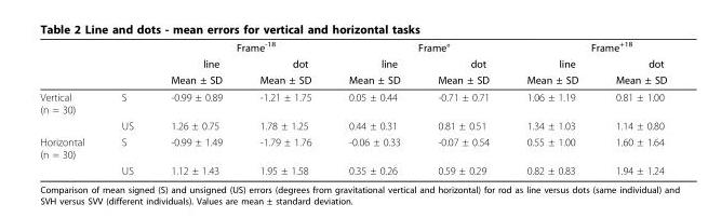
<table><thead><tr><td rowspan="3"></td><td rowspan="3"></td><td colspan="2">Frame<sup>-18</sup></td><td colspan="2">Frame°</td><td colspan="2">Frame<sup>+18</sup></td></tr><tr><td rowspan="2">line Mean ± SD</td><td rowspan="2">dot Mean ± SD</td><td rowspan="2">line Mean ± SD</td><td rowspan="2">dot Mean ± SD</td><td rowspan="2">line Mean ± SD</td><td rowspan="2">dot Mean ± SD</td></tr><tr></tr></thead><tbody><tr><td rowspan="2">Vertical (n = 30)</td><td>S</td><td>-0.99 ± 0.89</td><td>-1.21 ± 1.75</td><td>0.05 ± 0.44</td><td>-0.71 ± 0.71</td><td>1.06 ± 1.19</td><td>0.81 ± 1.00</td></tr><tr><td>US</td><td>1.26 ± 0.75</td><td>1.78 ± 1.25</td><td>0.44 ± 0.31</td><td>0.81 ± 0.51</td><td>1.34 ± 1.03</td><td>1.14 ± 0.80</td></tr><tr><td rowspan="2">Horizontal (n = 30)</td><td>S</td><td>-0.99 ± 1.49</td><td>-1.79 ± 1.76</td><td>-0.06 ± 0.33</td><td>-0.07 ± 0.54</td><td>0.55 ± 1.00</td><td>1.60 ± 1.64</td></tr><tr><td>US</td><td>1.12 ± 1.43</td><td>1.95 ± 1.58</td><td>0.35 ± 0.26</td><td>0.59 ± 0.29</td><td>0.82 ± 0.83</td><td>1.94 ± 1.24</td></tr></tbody></table>